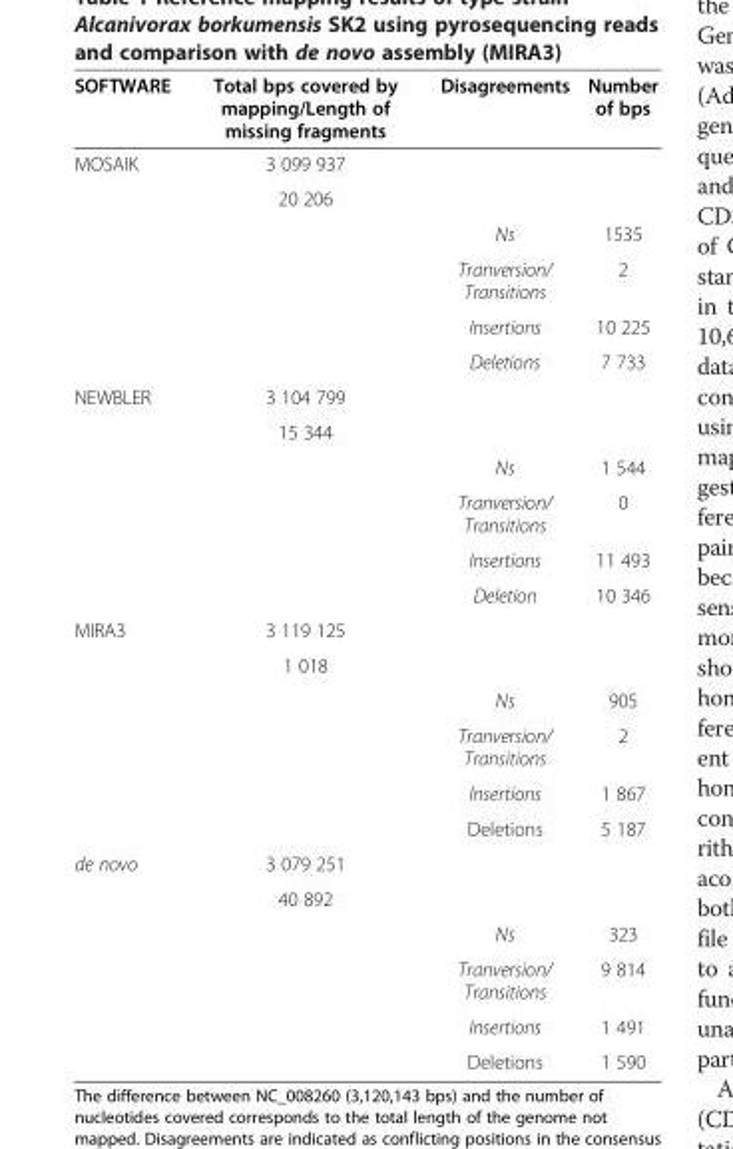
<table><thead><tr><td>SOFTWARE</td><td>Total bps covered by mapping/Length of missing fragments</td><td>Disagreements</td><td>Number of bps</td></tr></thead><tbody><tr><td rowspan="6">MOSAIK</td><td>3 099 937</td><td></td><td></td></tr><tr><td>20 206</td><td></td><td></td></tr><tr><td></td><td>Ns</td><td>1535</td></tr><tr><td></td><td>Tranversion/ Transitions</td><td>2</td></tr><tr><td></td><td>Insertions</td><td>10 225</td></tr><tr><td></td><td>Deletions</td><td>7 733</td></tr><tr><td rowspan="6">NEWBLER</td><td>3 104 799</td><td></td><td></td></tr><tr><td>15 344</td><td></td><td></td></tr><tr><td></td><td>Ns</td><td>1 544</td></tr><tr><td></td><td>Tranversion/ Transitions</td><td>0</td></tr><tr><td></td><td>Insertions</td><td>11 493</td></tr><tr><td></td><td>Deletion</td><td>10 346</td></tr><tr><td rowspan="6">MIRA3</td><td>3 119 125</td><td></td><td></td></tr><tr><td>1 018</td><td></td><td></td></tr><tr><td></td><td>Ns</td><td>905</td></tr><tr><td></td><td>Tranversion/ Transitions</td><td>2</td></tr><tr><td></td><td>Insertions</td><td>1 867</td></tr><tr><td></td><td>Deletions</td><td>5 187</td></tr><tr><td rowspan="6">de novo</td><td>3 079 251</td><td></td><td></td></tr><tr><td>40 892</td><td></td><td></td></tr><tr><td></td><td>Ns</td><td>323</td></tr><tr><td></td><td>Tranversion/ Transitions</td><td>9 814</td></tr><tr><td></td><td>Insertions</td><td>1 491</td></tr><tr><td></td><td>Deletions</td><td>1 590</td></tr></tbody></table>